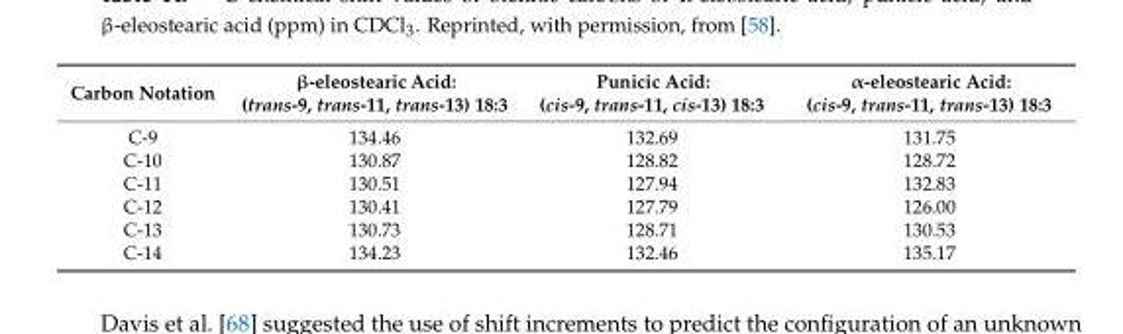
<table><thead><tr><td>Carbon Notation</td><td>β-eleostearic Acid: (trans-9, trans-11, trans-13) 18:3</td><td>Punicic Acid: (cis-9, trans-11, cis-13) 18:3</td><td>α-eleostearic Acid: (cis-9, trans-11, trans-13) 18:3</td></tr></thead><tbody><tr><td>C-9</td><td>134.46</td><td>132.69</td><td>131.75</td></tr><tr><td>C-10</td><td>130.87</td><td>128.82</td><td>128.72</td></tr><tr><td>C-11</td><td>130.51</td><td>127.94</td><td>132.83</td></tr><tr><td>C-12</td><td>130.41</td><td>127.79</td><td>126.00</td></tr><tr><td>C-13</td><td>130.73</td><td>128.71</td><td>130.53</td></tr><tr><td>C-14</td><td>134.23</td><td>132.46</td><td>135.17</td></tr></tbody></table>